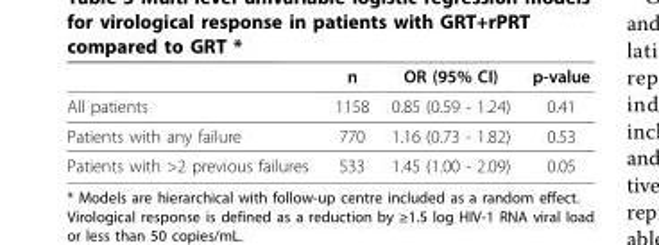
<table><thead><tr><td></td><td>n</td><td>OR (95% CI)</td><td>p-value</td></tr></thead><tbody><tr><td>All patients</td><td>1158</td><td>0.85 (0.59 - 1.24)</td><td>0.41</td></tr><tr><td>Patients with any failure</td><td>770</td><td>1.16 (0.73 - 1.82)</td><td>0.53</td></tr><tr><td>Patients with &gt;2 previous failures</td><td>533</td><td>1.45 (1.00 - 2.09)</td><td>0.05</td></tr></tbody></table>